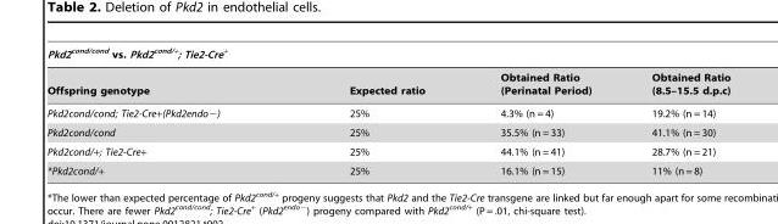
<table><thead><tr><td colspan="4">Pkd2<sup>cond/cond</sup> vs. Pkd2<sup>cond/+</sup>; Tie2-Cre<sup>+</sup></td></tr><tr><td>Offspring genotype</td><td>Expected ratio</td><td>Obtained Ratio (Perinatal Period)</td><td>Obtained Ratio (8.5–15.5 d.p.c)</td></tr></thead><tbody><tr><td>Pkd2cond/cond; Tie2-Cre+(Pkd2endo−)</td><td>25%</td><td>4.3% (n = 4)</td><td>19.2% (n = 14)</td></tr><tr><td>Pkd2cond/cond</td><td>25%</td><td>35.5% (n = 33)</td><td>41.1% (n = 30)</td></tr><tr><td>Pkd2cond/+; Tie2-Cre+</td><td>25%</td><td>44.1% (n = 41)</td><td>28.7% (n = 21)</td></tr><tr><td>*Pkd2cond/+</td><td>25%</td><td>16.1% (n = 15)</td><td>11% (n = 8)</td></tr></tbody></table>